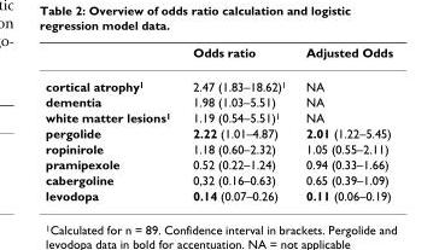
<table><thead><tr><td></td><td>Odds ratio</td><td>Adjusted Odds</td></tr></thead><tbody><tr><td>cortical atrophy<sup>1</sup></td><td>2.47 (1.83–18.62)<sup>1</sup></td><td>NA</td></tr><tr><td>dementia</td><td>1.98 (1.03–5.51)</td><td>NA</td></tr><tr><td>white matter lesions<sup>1</sup></td><td>1.19 (0.54–5.51)<sup>1</sup></td><td>NA</td></tr><tr><td>pergolide</td><td>2.22 (1.01–4.87)</td><td>2.01 (1.22–5.45)</td></tr><tr><td>ropinirole</td><td>1.18 (0.60–2.32)</td><td>1.05 (0.55–2.11)</td></tr><tr><td>pramipexole</td><td>0.52 (0.22–1.24)</td><td>0.94 (0.33–1.66)</td></tr><tr><td>cabergoline</td><td>0,32 (0.16–0.63)</td><td>0.65 (0.39–1.09)</td></tr><tr><td>levodopa</td><td>0.14 (0.07–0.26)</td><td>0.11 (0.06–0.19)</td></tr></tbody></table>